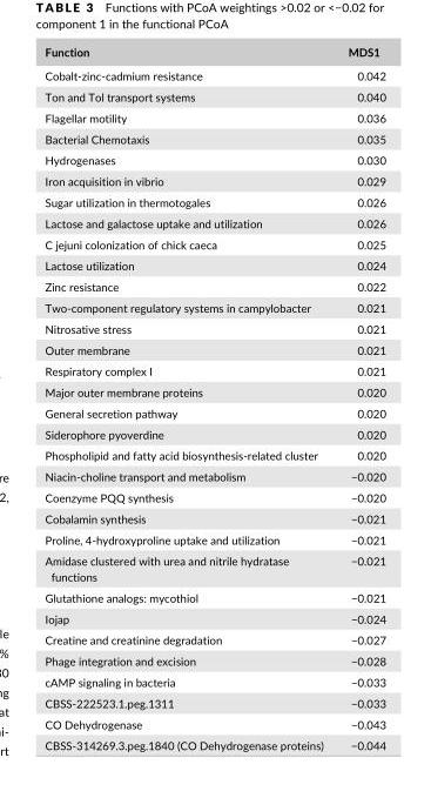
<table><thead><tr><td>Function</td><td>MDS1</td></tr></thead><tbody><tr><td>Cobalt- zinc- cadmium resistance</td><td>0.042</td></tr><tr><td>Ton and Tol transport systems</td><td>0.040</td></tr><tr><td>Flagellar motility</td><td>0.036</td></tr><tr><td>Bacterial Chemotaxis</td><td>0.035</td></tr><tr><td>Hydrogenases</td><td>0.030</td></tr><tr><td>Iron acquisition in vibrio</td><td>0.029</td></tr><tr><td>Sugar utilization in thermotogales</td><td>0.026</td></tr><tr><td>Lactose and galactose uptake and utilization</td><td>0.026</td></tr><tr><td>C jejuni colonization of chick caeca</td><td>0.025</td></tr><tr><td>Lactose utilization</td><td>0.024</td></tr><tr><td>Zinc resistance</td><td>0.022</td></tr><tr><td>Two- component regulatory systems in campylobacter</td><td>0.021</td></tr><tr><td>Nitrosative stress</td><td>0.021</td></tr><tr><td>Outer membrane</td><td>0.021</td></tr><tr><td>Respiratory complex I</td><td>0.021</td></tr><tr><td>Major outer membrane proteins</td><td>0.020</td></tr><tr><td>General secretion pathway</td><td>0.020</td></tr><tr><td>Siderophore pyoverdine</td><td>0.020</td></tr><tr><td>Phospholipid and fatty acid biosynthesis- related cluster</td><td>0.020</td></tr><tr><td>Niacin- choline transport and metabolism</td><td>−0.020</td></tr><tr><td>Coenzyme PQQ synthesis</td><td>−0.020</td></tr><tr><td>Cobalamin synthesis</td><td>−0.021</td></tr><tr><td>Proline, 4- hydroxyproline uptake and utilization</td><td>−0.021</td></tr><tr><td>Amidase clustered with urea and nitrile hydratase functions</td><td>−0.021</td></tr><tr><td>Glutathione analogs: mycothiol</td><td>−0.021</td></tr><tr><td>Iojap</td><td>−0.024</td></tr><tr><td>Creatine and creatinine degradation</td><td>−0.027</td></tr><tr><td>Phage integration and excision</td><td>−0.028</td></tr><tr><td>cAMP signaling in bacteria</td><td>−0.033</td></tr><tr><td>CBSS- 222523.1.peg.1311</td><td>−0.033</td></tr><tr><td>CO Dehydrogenase</td><td>−0.043</td></tr><tr><td>CBSS- 314269.3.peg.1840 (CO Dehydrogenase proteins)</td><td>−0.044</td></tr></tbody></table>